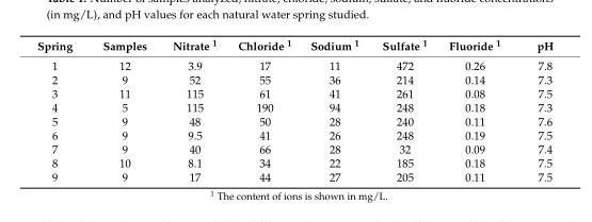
<table><thead><tr><td>Spring</td><td>Samples</td><td>Nitrate <sup>1</sup></td><td>Chloride <sup>1</sup></td><td>Sodium <sup>1</sup></td><td>Sulfate <sup>1</sup></td><td>Fluoride <sup>1</sup></td><td>pH</td></tr></thead><tbody><tr><td>1</td><td>12</td><td>3.9</td><td>17</td><td>11</td><td>472</td><td>0.26</td><td>7.8</td></tr><tr><td>2</td><td>9</td><td>52</td><td>55</td><td>36</td><td>214</td><td>0.14</td><td>7.3</td></tr><tr><td>3</td><td>11</td><td>115</td><td>61</td><td>41</td><td>261</td><td>0.08</td><td>7.5</td></tr><tr><td>4</td><td>5</td><td>115</td><td>190</td><td>94</td><td>248</td><td>0.18</td><td>7.3</td></tr><tr><td>5</td><td>9</td><td>48</td><td>50</td><td>28</td><td>240</td><td>0.11</td><td>7.6</td></tr><tr><td>6</td><td>9</td><td>9.5</td><td>41</td><td>26</td><td>248</td><td>0.19</td><td>7.5</td></tr><tr><td>7</td><td>9</td><td>40</td><td>66</td><td>28</td><td>32</td><td>0.09</td><td>7.4</td></tr><tr><td>8</td><td>10</td><td>8.1</td><td>34</td><td>22</td><td>185</td><td>0.18</td><td>7.5</td></tr><tr><td>9</td><td>9</td><td>17</td><td>44</td><td>27</td><td>205</td><td>0.11</td><td>7.5</td></tr></tbody></table>